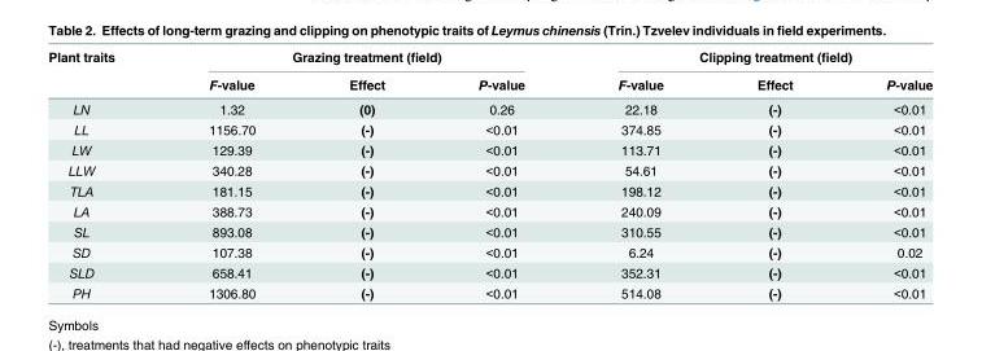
<table><thead><tr><td rowspan="2">Plant traits</td><td colspan="3">Grazing treatment (field)</td><td colspan="3">Clipping treatment (field)</td></tr><tr><td>F-value</td><td>Effect</td><td>P-value</td><td>F-value</td><td>Effect</td><td>P-value</td></tr></thead><tbody><tr><td>LN</td><td>1.32</td><td>(0)</td><td>0.26</td><td>22.18</td><td>(-)</td><td>&lt;0.01</td></tr><tr><td>LL</td><td>1156.70</td><td>(-)</td><td>&lt;0.01</td><td>374.85</td><td>(-)</td><td>&lt;0.01</td></tr><tr><td>LW</td><td>129.39</td><td>(-)</td><td>&lt;0.01</td><td>113.71</td><td>(-)</td><td>&lt;0.01</td></tr><tr><td>LLW</td><td>340.28</td><td>(-)</td><td>&lt;0.01</td><td>54.61</td><td>(-)</td><td>&lt;0.01</td></tr><tr><td>TLA</td><td>181.15</td><td>(-)</td><td>&lt;0.01</td><td>198.12</td><td>(-)</td><td>&lt;0.01</td></tr><tr><td>LA</td><td>388.73</td><td>(-)</td><td>&lt;0.01</td><td>240.09</td><td>(-)</td><td>&lt;0.01</td></tr><tr><td>SL</td><td>893.08</td><td>(-)</td><td>&lt;0.01</td><td>310.55</td><td>(-)</td><td>&lt;0.01</td></tr><tr><td>SD</td><td>107.38</td><td>(-)</td><td>&lt;0.01</td><td>6.24</td><td>(-)</td><td>0.02</td></tr><tr><td>SLD</td><td>658.41</td><td>(-)</td><td>&lt;0.01</td><td>352.31</td><td>(-)</td><td>&lt;0.01</td></tr><tr><td>PH</td><td>1306.80</td><td>(-)</td><td>&lt;0.01</td><td>514.08</td><td>(-)</td><td>&lt;0.01</td></tr></tbody></table>